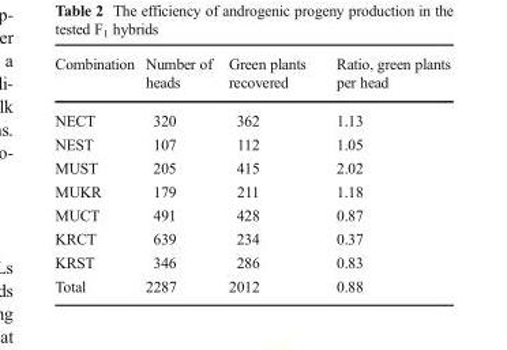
<table><thead><tr><td>Combination</td><td>Number of heads</td><td>Green plants recovered</td><td>Ratio, green plants per head</td></tr></thead><tbody><tr><td>NECT</td><td>320</td><td>362</td><td>1.13</td></tr><tr><td>NEST</td><td>107</td><td>112</td><td>1.05</td></tr><tr><td>MUST</td><td>205</td><td>415</td><td>2.02</td></tr><tr><td>MUKR</td><td>179</td><td>211</td><td>1.18</td></tr><tr><td>MUCT</td><td>491</td><td>428</td><td>0.87</td></tr><tr><td>KRCT</td><td>639</td><td>234</td><td>0.37</td></tr><tr><td>KRST</td><td>346</td><td>286</td><td>0.83</td></tr><tr><td>Total</td><td>2287</td><td>2012</td><td>0.88</td></tr></tbody></table>